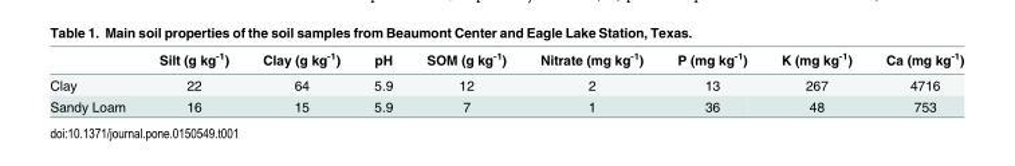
<table><thead><tr><td></td><td>Silt (g kg<sup>-1</sup>)</td><td>Clay (g kg<sup>-1</sup>)</td><td>pH</td><td>SOM (g kg<sup>-1</sup>)</td><td>Nitrate (mg kg<sup>-1</sup>)</td><td>P (mg kg<sup>-1</sup>)</td><td>K (mg kg<sup>-1</sup>)</td><td>Ca (mg kg<sup>-1</sup>)</td></tr></thead><tbody><tr><td>Clay</td><td>22</td><td>64</td><td>5.9</td><td>12</td><td>2</td><td>13</td><td>267</td><td>4716</td></tr><tr><td>Sandy Loam</td><td>16</td><td>15</td><td>5.9</td><td>7</td><td>1</td><td>36</td><td>48</td><td>753</td></tr></tbody></table>